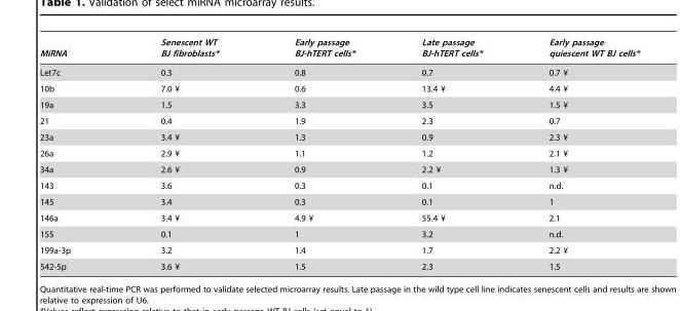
<table><thead><tr><td>MiRNA</td><td>Senescent WT BJ fibroblasts*</td><td>Early passage BJ-hTERT cells*</td><td>Late passage BJ-hTERT cells*</td><td>Early passage quiescent WT BJ cells*</td></tr></thead><tbody><tr><td>Let7c</td><td>0.3</td><td>0.8</td><td>0.7</td><td>0.7 ¥</td></tr><tr><td>10b</td><td>7.0 ¥</td><td>0.6</td><td>13.4 ¥</td><td>4.4 ¥</td></tr><tr><td>19a</td><td>1.5</td><td>3.3</td><td>3.5</td><td>1.5 ¥</td></tr><tr><td>21</td><td>0.4</td><td>1.9</td><td>2.3</td><td>0.7</td></tr><tr><td>23a</td><td>3.4 ¥</td><td>1.3</td><td>0.9</td><td>2.3 ¥</td></tr><tr><td>26a</td><td>2.9 ¥</td><td>1.1</td><td>1.2</td><td>2.1 ¥</td></tr><tr><td>34a</td><td>2.6 ¥</td><td>0.9</td><td>2.2 ¥</td><td>1.3 ¥</td></tr><tr><td>143</td><td>3.6</td><td>0.3</td><td>0.1</td><td>n.d.</td></tr><tr><td>145</td><td>3.4</td><td>0.3</td><td>0.1</td><td>1</td></tr><tr><td>146a</td><td>3.4 ¥</td><td>4.9 ¥</td><td>55.4 ¥</td><td>2.1</td></tr><tr><td>155</td><td>0.1</td><td>1</td><td>3.2</td><td>n.d.</td></tr><tr><td>199a-3p</td><td>3.2</td><td>1.4</td><td>1.7</td><td>2.2 ¥</td></tr><tr><td>542-5p</td><td>3.6 ¥</td><td>1.5</td><td>2.3</td><td>1.5</td></tr></tbody></table>